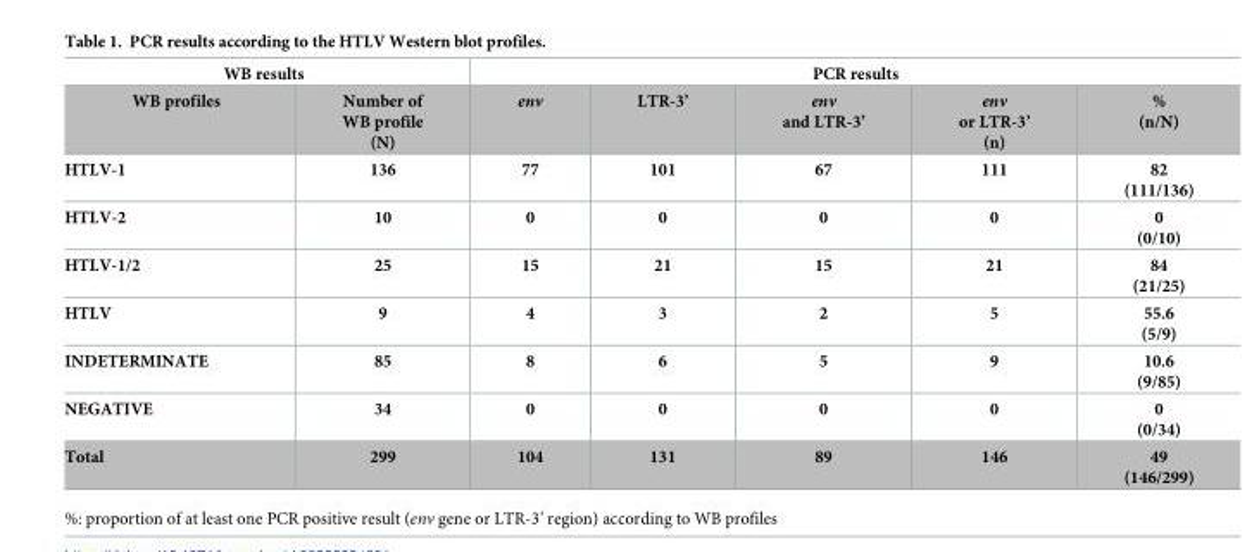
<table><thead><tr><td colspan="2">WB results</td><td colspan="5">PCR results</td></tr><tr><td>WB profiles</td><td>Number of WB profile (N)</td><td>env</td><td>LTR-3’</td><td>env and LTR-3’</td><td>env or LTR-3’ (n)</td><td>% (n/N)</td></tr></thead><tbody><tr><td>HTLV-1</td><td>136</td><td>77</td><td>101</td><td>67</td><td>111</td><td>82 (111/136)</td></tr><tr><td>HTLV-2</td><td>10</td><td>0</td><td>0</td><td>0</td><td>0</td><td>0 (0/10)</td></tr><tr><td>HTLV-1/2</td><td>25</td><td>15</td><td>21</td><td>15</td><td>21</td><td>84 (21/25)</td></tr><tr><td>HTLV</td><td>9</td><td>4</td><td>3</td><td>2</td><td>5</td><td>55.6 (5/9)</td></tr><tr><td>INDETERMINATE</td><td>85</td><td>8</td><td>6</td><td>5</td><td>9</td><td>10.6 (9/85)</td></tr><tr><td>NEGATIVE</td><td>34</td><td>0</td><td>0</td><td>0</td><td>0</td><td>0 (0/34)</td></tr><tr><td>Total</td><td>299</td><td>104</td><td>131</td><td>89</td><td>146</td><td>49 (146/299)</td></tr></tbody></table>